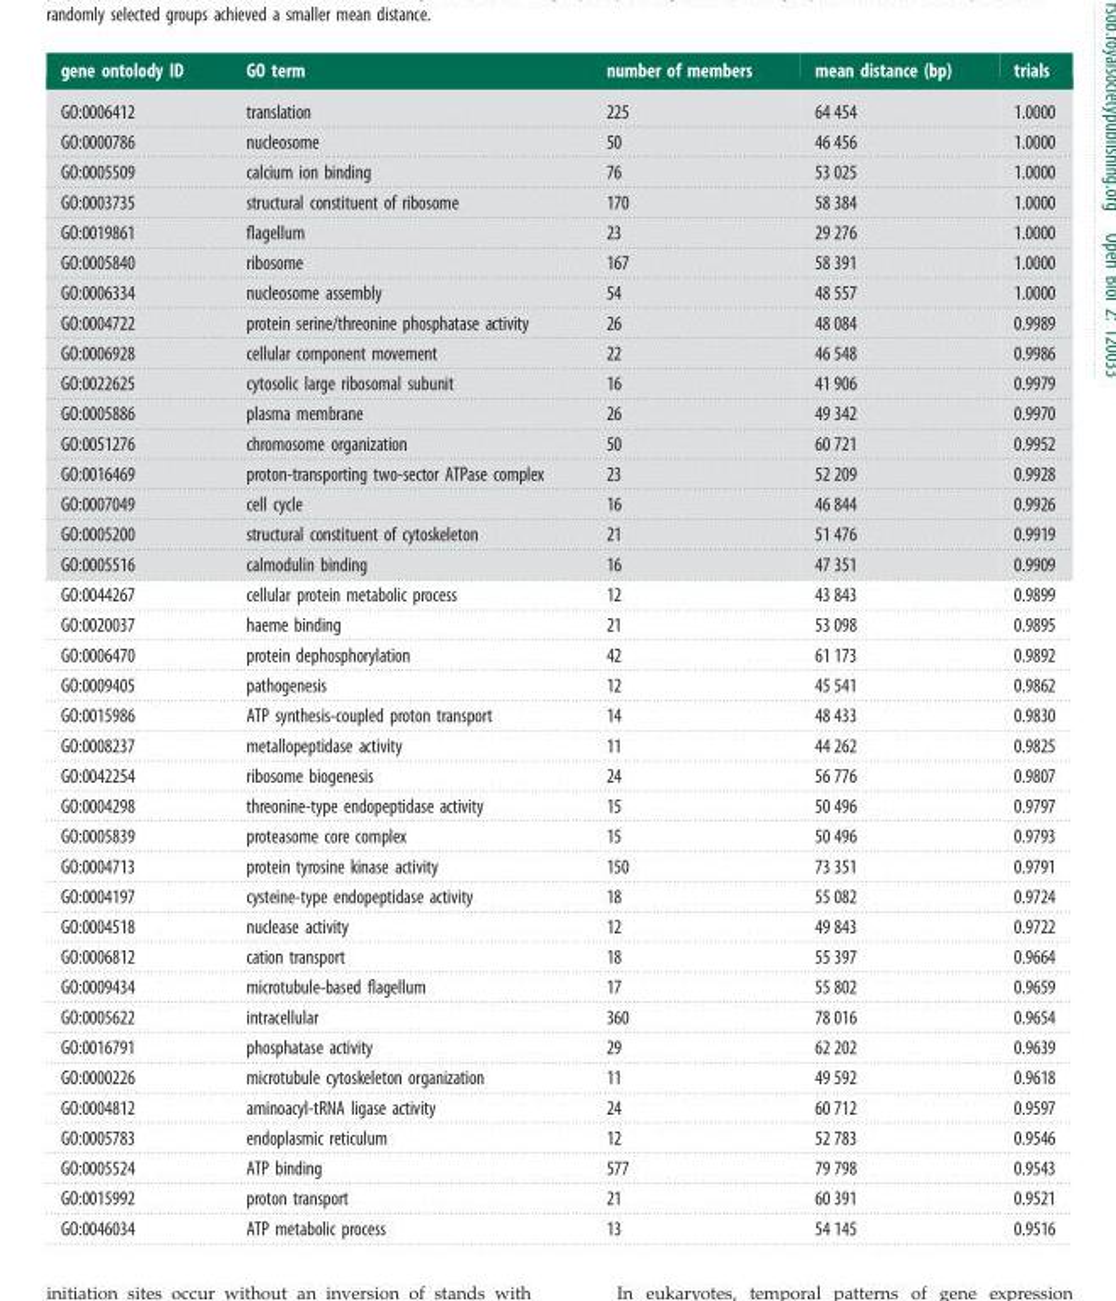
<table><thead><tr><td>gene ontolody ID</td><td>GO term</td><td>number of members</td><td>mean distance (bp)</td><td>trials</td></tr></thead><tbody><tr><td>GO:0006412</td><td>translation</td><td>225</td><td>64 454</td><td>1.0000</td></tr><tr><td>GO:0000786</td><td>nucleosome</td><td>50</td><td>46 456</td><td>1.0000</td></tr><tr><td>GO:0005509</td><td>calcium ion binding</td><td>76</td><td>53 025</td><td>1.0000</td></tr><tr><td>GO:0003735</td><td>structural constituent of ribosome</td><td>170</td><td>58 384</td><td>1.0000</td></tr><tr><td>GO:0019861</td><td>flagellum</td><td>23</td><td>29 276</td><td>1.0000</td></tr><tr><td>GO:0005840</td><td>ribosome</td><td>167</td><td>58 391</td><td>1.0000</td></tr><tr><td>GO:0006334</td><td>nucleosome assembly</td><td>54</td><td>48 557</td><td>1.0000</td></tr><tr><td>GO:0004722</td><td>protein serine/threonine phosphatase activity</td><td>26</td><td>48 084</td><td>0.9989</td></tr><tr><td>GO:0006928</td><td>cellular component movement</td><td>22</td><td>46 548</td><td>0.9986</td></tr><tr><td>GO:0022625</td><td>cytosolic large ribosomal subunit</td><td>16</td><td>41 906</td><td>0.9979</td></tr><tr><td>GO:0005886</td><td>plasma membrane</td><td>26</td><td>49 342</td><td>0.9970</td></tr><tr><td>GO:0051276</td><td>chromosome organization</td><td>50</td><td>60 721</td><td>0.9952</td></tr><tr><td>GO:0016469</td><td>proton-transporting two-sector ATPase complex</td><td>23</td><td>52 209</td><td>0.9928</td></tr><tr><td>GO:0007049</td><td>cell cycle</td><td>16</td><td>46 844</td><td>0.9926</td></tr><tr><td>GO:0005200</td><td>structural constituent of cytoskeleton</td><td>21</td><td>51 476</td><td>0.9919</td></tr><tr><td>GO:0005516</td><td>calmodulin binding</td><td>16</td><td>47 351</td><td>0.9909</td></tr><tr><td>GO:0044267</td><td>cellular protein metabolic process</td><td>12</td><td>43 843</td><td>0.9899</td></tr><tr><td>GO:0020037</td><td>haeme binding</td><td>21</td><td>53 098</td><td>0.9895</td></tr><tr><td>GO:0006470</td><td>protein dephosphorylation</td><td>42</td><td>61 173</td><td>0.9892</td></tr><tr><td>GO:0009405</td><td>pathogenesis</td><td>12</td><td>45 541</td><td>0.9862</td></tr><tr><td>GO:0015986</td><td>ATP synthesis-coupled proton transport</td><td>14</td><td>48 433</td><td>0.9830</td></tr><tr><td>GO:0008237</td><td>metallopeptidase activity</td><td>11</td><td>44 262</td><td>0.9825</td></tr><tr><td>GO:0042254</td><td>ribosome biogenesis</td><td>24</td><td>56 776</td><td>0.9807</td></tr><tr><td>GO:0004298</td><td>threonine-type endopeptidase activity</td><td>15</td><td>50 496</td><td>0.9797</td></tr><tr><td>GO:0005839</td><td>proteasome core complex</td><td>15</td><td>50 496</td><td>0.9793</td></tr><tr><td>GO:0004713</td><td>protein tyrosine kinase activity</td><td>150</td><td>73 351</td><td>0.9791</td></tr><tr><td>GO:0004197</td><td>cysteine-type endopeptidase activity</td><td>18</td><td>55 082</td><td>0.9724</td></tr><tr><td>GO:0004518</td><td>nuclease activity</td><td>12</td><td>49 843</td><td>0.9722</td></tr><tr><td>GO:0006812</td><td>cation transport</td><td>18</td><td>55 397</td><td>0.9664</td></tr><tr><td>GO:0009434</td><td>microtubule-based flagellum</td><td>17</td><td>55 802</td><td>0.9659</td></tr><tr><td>GO:0005622</td><td>intracellular</td><td>360</td><td>78 016</td><td>0.9654</td></tr><tr><td>GO:0016791</td><td>phosphatase activity</td><td>29</td><td>62 202</td><td>0.9639</td></tr><tr><td>GO:0000226</td><td>microtubule cytoskeleton organization</td><td>11</td><td>49 592</td><td>0.9618</td></tr><tr><td>GO:0004812</td><td>aminoacyl-tRNA ligase activity</td><td>24</td><td>60 712</td><td>0.9597</td></tr><tr><td>GO:0005783</td><td>endoplasmic reticulum</td><td>12</td><td>52 783</td><td>0.9546</td></tr><tr><td>GO:0005524</td><td>ATP binding</td><td>577</td><td>79 798</td><td>0.9543</td></tr><tr><td>GO:0015992</td><td>proton transport</td><td>21</td><td>60 391</td><td>0.9521</td></tr><tr><td>GO:0046034</td><td>ATP metabolic process</td><td>13</td><td>54 145</td><td>0.9516</td></tr></tbody></table>